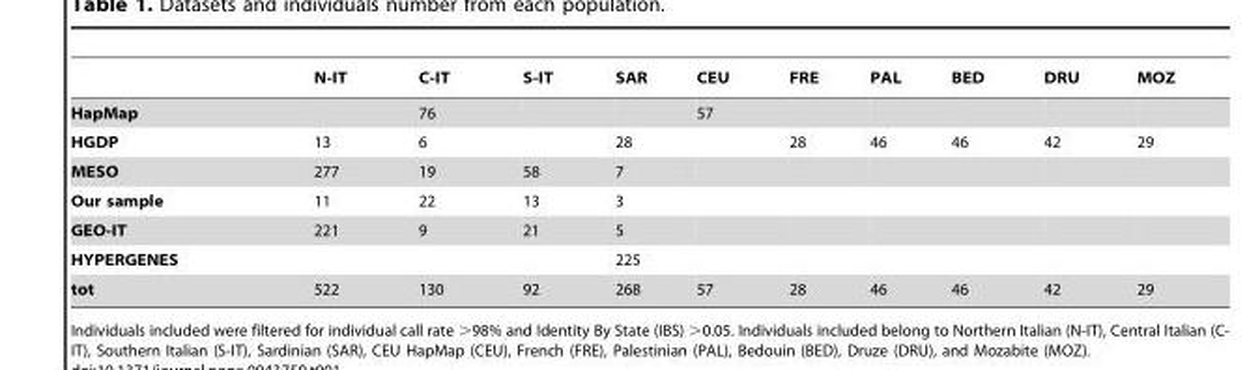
<table><thead><tr><td></td><td>N-IT</td><td>C-IT</td><td>S-IT</td><td>SAR</td><td>CEU</td><td>FRE</td><td>PAL</td><td>BED</td><td>DRU</td><td>MOZ</td></tr></thead><tbody><tr><td>HapMap</td><td></td><td>76</td><td></td><td></td><td>57</td><td></td><td></td><td></td><td></td><td></td></tr><tr><td>HGDP</td><td>13</td><td>6</td><td></td><td>28</td><td></td><td>28</td><td>46</td><td>46</td><td>42</td><td>29</td></tr><tr><td>MESO</td><td>277</td><td>19</td><td>58</td><td>7</td><td></td><td></td><td></td><td></td><td></td><td></td></tr><tr><td>Our sample</td><td>11</td><td>22</td><td>13</td><td>3</td><td></td><td></td><td></td><td></td><td></td><td></td></tr><tr><td>GEO-IT</td><td>221</td><td>9</td><td>21</td><td>5</td><td></td><td></td><td></td><td></td><td></td><td></td></tr><tr><td>HYPERGENES</td><td></td><td></td><td></td><td>225</td><td></td><td></td><td></td><td></td><td></td><td></td></tr><tr><td>tot</td><td>522</td><td>130</td><td>92</td><td>268</td><td>57</td><td>28</td><td>46</td><td>46</td><td>42</td><td>29</td></tr></tbody></table>